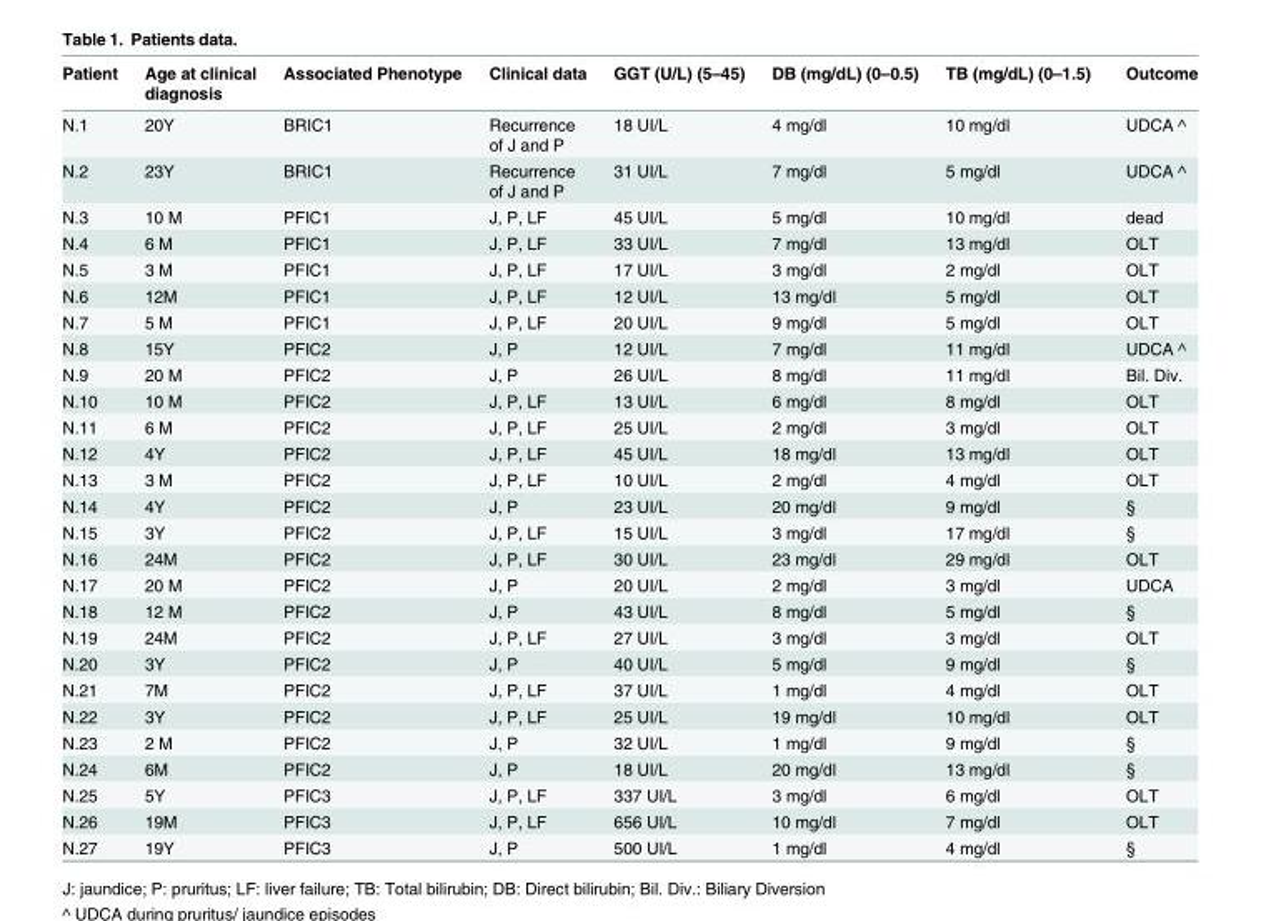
<table><thead><tr><td>Patient</td><td>Age at clinical diagnosis</td><td>Associated Phenotype</td><td>Clinical data</td><td>GGT (U/L) (5–45)</td><td>DB (mg/dL) (0–0.5)</td><td>TB (mg/dL) (0–1.5)</td><td>Outcome</td></tr></thead><tbody><tr><td>N.1</td><td>20Y</td><td>BRIC1</td><td>Recurrence of J and P</td><td>18 UI/L</td><td>4 mg/dl</td><td>10 mg/dl</td><td>UDCA ^</td></tr><tr><td>N.2</td><td>23Y</td><td>BRIC1</td><td>Recurrence of J and P</td><td>31 UI/L</td><td>7 mg/dl</td><td>5 mg/dl</td><td>UDCA ^</td></tr><tr><td>N.3</td><td>10 M</td><td>PFIC1</td><td>J, P, LF</td><td>45 UI/L</td><td>5 mg/dl</td><td>10 mg/dl</td><td>dead</td></tr><tr><td>N.4</td><td>6 M</td><td>PFIC1</td><td>J, P, LF</td><td>33 UI/L</td><td>7 mg/dl</td><td>13 mg/dl</td><td>OLT</td></tr><tr><td>N.5</td><td>3 M</td><td>PFIC1</td><td>J, P, LF</td><td>17 UI/L</td><td>3 mg/dl</td><td>2 mg/dl</td><td>OLT</td></tr><tr><td>N.6</td><td>12M</td><td>PFIC1</td><td>J, P, LF</td><td>12 UI/L</td><td>13 mg/dl</td><td>5 mg/dl</td><td>OLT</td></tr><tr><td>N.7</td><td>5 M</td><td>PFIC1</td><td>J, P, LF</td><td>20 UI/L</td><td>9 mg/dl</td><td>5 mg/dl</td><td>OLT</td></tr><tr><td>N.8</td><td>15Y</td><td>PFIC2</td><td>J, P</td><td>12 UI/L</td><td>7 mg/dl</td><td>11 mg/dl</td><td>UDCA ^</td></tr><tr><td>N.9</td><td>20 M</td><td>PFIC2</td><td>J, P</td><td>26 UI/L</td><td>8 mg/dl</td><td>11 mg/dl</td><td>Bil. Div.</td></tr><tr><td>N.10</td><td>10 M</td><td>PFIC2</td><td>J, P, LF</td><td>13 UI/L</td><td>6 mg/dl</td><td>8 mg/dl</td><td>OLT</td></tr><tr><td>N.11</td><td>6 M</td><td>PFIC2</td><td>J, P, LF</td><td>25 UI/L</td><td>2 mg/dl</td><td>3 mg/dl</td><td>OLT</td></tr><tr><td>N.12</td><td>4Y</td><td>PFIC2</td><td>J, P, LF</td><td>45 UI/L</td><td>18 mg/dl</td><td>13 mg/dl</td><td>OLT</td></tr><tr><td>N.13</td><td>3 M</td><td>PFIC2</td><td>J, P, LF</td><td>10 UI/L</td><td>2 mg/dl</td><td>4 mg/dl</td><td>OLT</td></tr><tr><td>N.14</td><td>4Y</td><td>PFIC2</td><td>J, P</td><td>23 UI/L</td><td>20 mg/dl</td><td>9 mg/dl</td><td>§</td></tr><tr><td>N.15</td><td>3Y</td><td>PFIC2</td><td>J, P, LF</td><td>15 UI/L</td><td>3 mg/dl</td><td>17 mg/dl</td><td>§</td></tr><tr><td>N.16</td><td>24M</td><td>PFIC2</td><td>J, P, LF</td><td>30 UI/L</td><td>23 mg/dl</td><td>29 mg/dl</td><td>OLT</td></tr><tr><td>N.17</td><td>20 M</td><td>PFIC2</td><td>J, P</td><td>20 UI/L</td><td>2 mg/dl</td><td>3 mg/dl</td><td>UDCA</td></tr><tr><td>N.18</td><td>12 M</td><td>PFIC2</td><td>J, P</td><td>43 UI/L</td><td>8 mg/dl</td><td>5 mg/dl</td><td>§</td></tr><tr><td>N.19</td><td>24M</td><td>PFIC2</td><td>J, P, LF</td><td>27 UI/L</td><td>3 mg/dl</td><td>3 mg/dl</td><td>OLT</td></tr><tr><td>N.20</td><td>3Y</td><td>PFIC2</td><td>J, P</td><td>40 UI/L</td><td>5 mg/dl</td><td>9 mg/dl</td><td>§</td></tr><tr><td>N.21</td><td>7M</td><td>PFIC2</td><td>J, P, LF</td><td>37 UI/L</td><td>1 mg/dl</td><td>4 mg/dl</td><td>OLT</td></tr><tr><td>N.22</td><td>3Y</td><td>PFIC2</td><td>J, P, LF</td><td>25 UI/L</td><td>19 mg/dl</td><td>10 mg/dl</td><td>OLT</td></tr><tr><td>N.23</td><td>2 M</td><td>PFIC2</td><td>J, P</td><td>32 UI/L</td><td>1 mg/dl</td><td>9 mg/dl</td><td>§</td></tr><tr><td>N.24</td><td>6M</td><td>PFIC2</td><td>J, P</td><td>18 UI/L</td><td>20 mg/dl</td><td>13 mg/dl</td><td>§</td></tr><tr><td>N.25</td><td>5Y</td><td>PFIC3</td><td>J, P, LF</td><td>337 UI/L</td><td>3 mg/dl</td><td>6 mg/dl</td><td>OLT</td></tr><tr><td>N.26</td><td>19M</td><td>PFIC3</td><td>J, P, LF</td><td>656 UI/L</td><td>10 mg/dl</td><td>7 mg/dl</td><td>OLT</td></tr><tr><td>N.27</td><td>19Y</td><td>PFIC3</td><td>J, P</td><td>500 UI/L</td><td>1 mg/dl</td><td>4 mg/dl</td><td>§</td></tr></tbody></table>